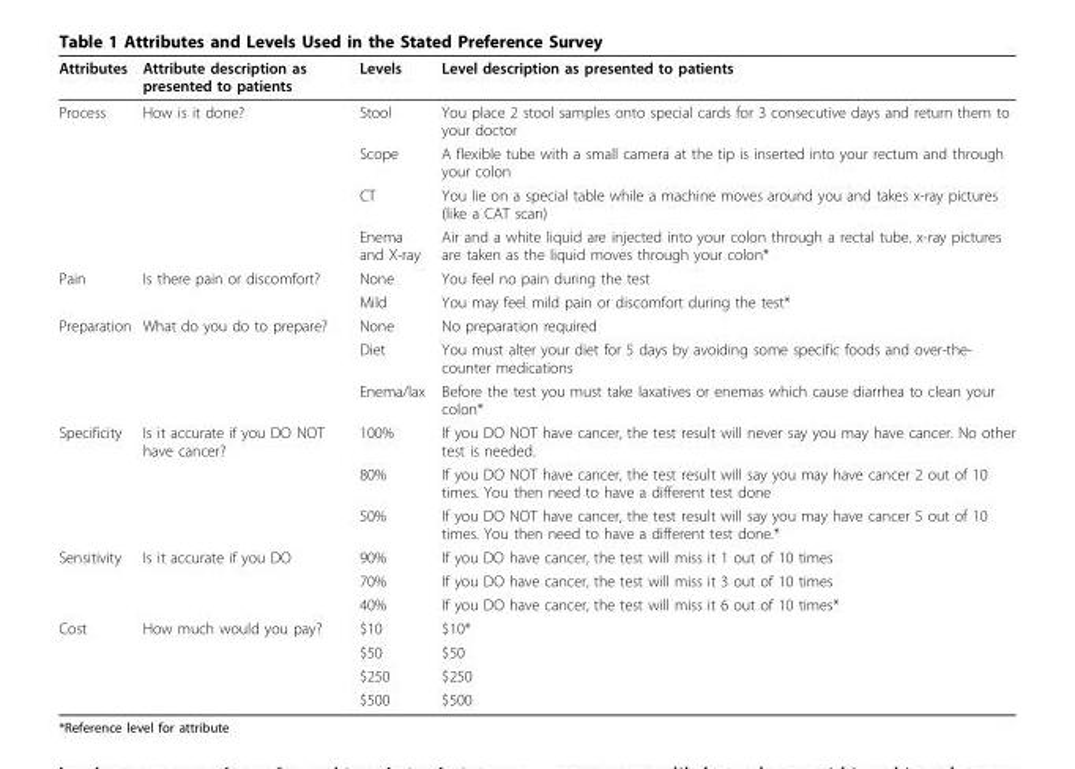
<table><thead><tr><td>Attributes</td><td>Attribute description as presented to patients</td><td>Levels</td><td>Level description as presented to patients</td></tr></thead><tbody><tr><td rowspan="4">Process</td><td>How is it done?</td><td>Stool</td><td>You place 2 stool samples onto special cards for 3 consecutive days and return them to your doctor</td></tr><tr><td></td><td>Scope</td><td>A flexible tube with a small camera at the tip is inserted into your rectum and through your colon</td></tr><tr><td></td><td>CT</td><td>You lie on a special table while a machine moves around you and takes x-ray pictures (like a CAT scan)</td></tr><tr><td></td><td>Enema and X-ray</td><td>Air and a white liquid are injected into your colon through a rectal tube. x-ray pictures are taken as the liquid moves through your colon*</td></tr><tr><td rowspan="2">Pain</td><td>Is there pain or discomfort?</td><td>None</td><td>You feel no pain during the test</td></tr><tr><td></td><td>Mild</td><td>You may feel mild pain or discomfort during the test*</td></tr><tr><td rowspan="3">Preparation</td><td>What do you do to prepare?</td><td>None</td><td>No preparation required</td></tr><tr><td></td><td>Diet</td><td>You must alter your diet for 5 days by avoiding some specific foods and over-the- counter medications</td></tr><tr><td></td><td>Enema/lax</td><td>Before the test you must take laxatives or enemas which cause diarrhea to clean your colon*</td></tr><tr><td rowspan="3">Specificity</td><td>Is it accurate if you DO NOT have cancer?</td><td>100%</td><td>If you DO NOT have cancer, the test result will never say you may have cancer. No other test is needed.</td></tr><tr><td></td><td>80%</td><td>If you DO NOT have cancer, the test result will say you may have cancer 2 out of 10 times. You then need to have a different test done</td></tr><tr><td></td><td>50%</td><td>If you DO NOT have cancer, the test result will say you may have cancer 5 out of 10 times. You then need to have a different test done.*</td></tr><tr><td rowspan="3">Sensitivity</td><td>Is it accurate if you DO</td><td>90%</td><td>If you DO have cancer, the test will miss it 1 out of 10 times</td></tr><tr><td></td><td>70%</td><td>If you DO have cancer, the test will miss it 3 out of 10 times</td></tr><tr><td></td><td>40%</td><td>If you DO have cancer, the test will miss it 6 out of 10 times*</td></tr><tr><td rowspan="4">Cost</td><td>How much would you pay?</td><td>$10</td><td>$10*</td></tr><tr><td></td><td>$50</td><td>$50</td></tr><tr><td></td><td>$250</td><td>$250</td></tr><tr><td></td><td>$500</td><td>$500</td></tr></tbody></table>